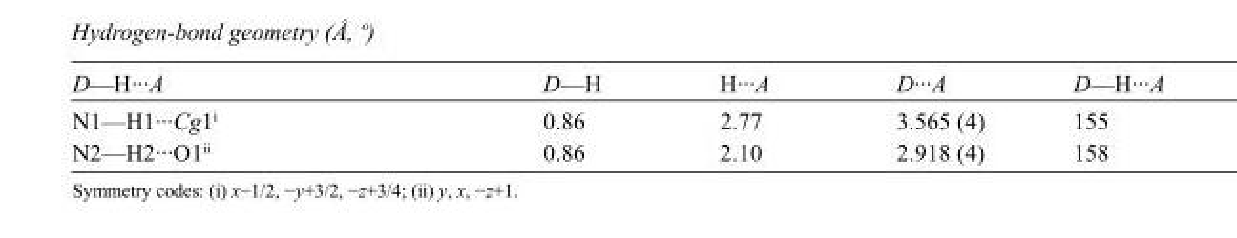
<table><tbody><tr><td>D—H···A</td><td>D—H</td><td>H···A</td><td>D···A</td><td>D—H···A</td></tr><tr><td>N1—H1···Cg1<sup>i</sup></td><td>0.86</td><td>2.77</td><td>3.565 (4)</td><td>155</td></tr><tr><td>N2—H2···O1<sup>ii</sup></td><td>0.86</td><td>2.10</td><td>2.918 (4)</td><td>158</td></tr></tbody></table>